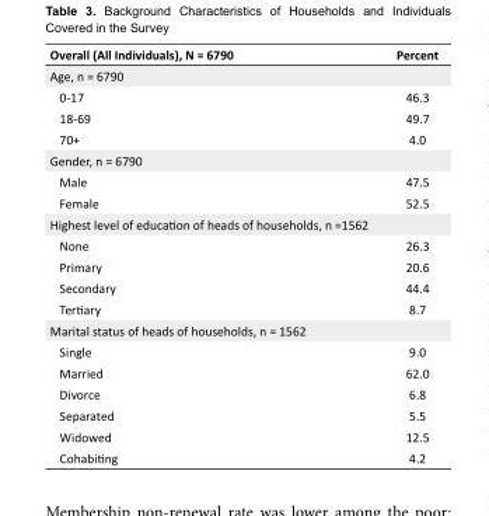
<table><tbody><tr><td>Overall (All Individuals), N = 6790</td><td>Percent</td></tr><tr><td colspan="2">Age, n = 6790</td></tr><tr><td>0-17</td><td>46.3</td></tr><tr><td>18-69</td><td>49.7</td></tr><tr><td>70+</td><td>4.0</td></tr><tr><td colspan="2">Gender, n = 6790</td></tr><tr><td>Male</td><td>47.5</td></tr><tr><td>Female</td><td>52.5</td></tr><tr><td colspan="2">Highest level of education of heads of households, n =1562</td></tr><tr><td>None</td><td>26.3</td></tr><tr><td>Primary</td><td>20.6</td></tr><tr><td>Secondary</td><td>44.4</td></tr><tr><td>Tertiary</td><td>8.7</td></tr><tr><td colspan="2">Marital status of heads of households, n = 1562</td></tr><tr><td>Single</td><td>9.0</td></tr><tr><td>Married</td><td>62.0</td></tr><tr><td>Divorce</td><td>6.8</td></tr><tr><td>Separated</td><td>5.5</td></tr><tr><td>Widowed</td><td>12.5</td></tr><tr><td>Cohabiting</td><td>4.2</td></tr></tbody></table>